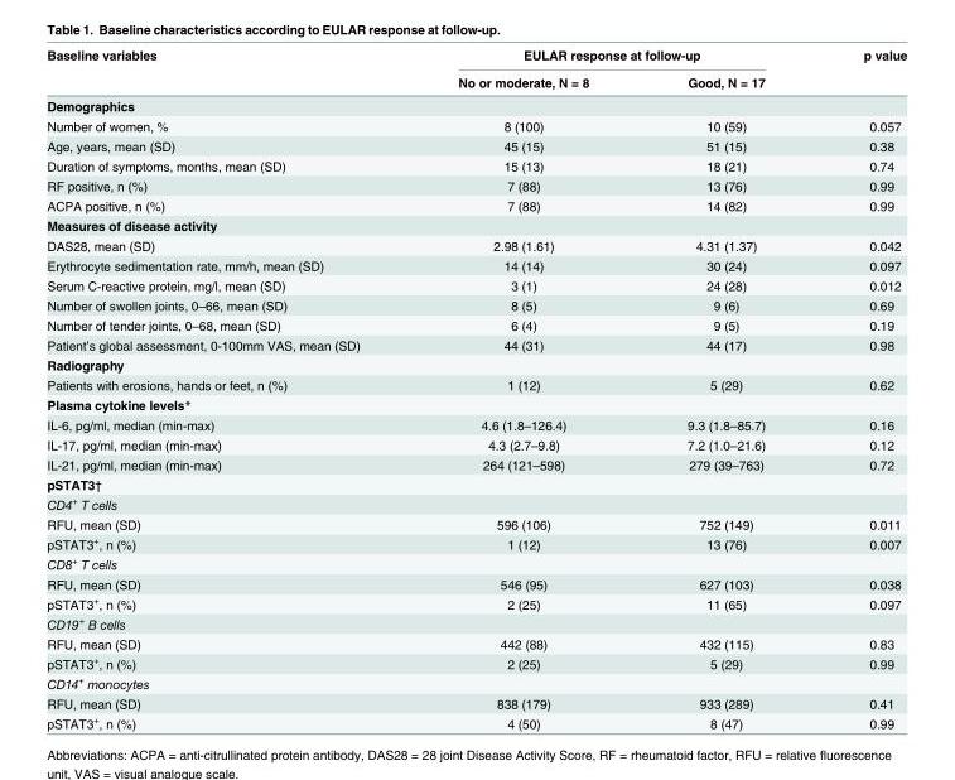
<table><thead><tr><td rowspan="2">Baseline variables</td><td colspan="2">EULAR response at follow-up</td><td rowspan="2">p value</td></tr><tr><td>No or moderate, N = 8</td><td>Good, N = 17</td></tr></thead><tbody><tr><td colspan="4">Demographics</td></tr><tr><td>Number of women, %</td><td>8 (100)</td><td>10 (59)</td><td>0.057</td></tr><tr><td>Age, years, mean (SD)</td><td>45 (15)</td><td>51 (15)</td><td>0.38</td></tr><tr><td>Duration of symptoms, months, mean (SD)</td><td>15 (13)</td><td>18 (21)</td><td>0.74</td></tr><tr><td>RF positive, n (%)</td><td>7 (88)</td><td>13 (76)</td><td>0.99</td></tr><tr><td>ACPA positive, n (%)</td><td>7 (88)</td><td>14 (82)</td><td>0.99</td></tr><tr><td colspan="4">Measures of disease activity</td></tr><tr><td>DAS28, mean (SD)</td><td>2.98 (1.61)</td><td>4.31 (1.37)</td><td>0.042</td></tr><tr><td>Erythrocyte sedimentation rate, mm/h, mean (SD)</td><td>14 (14)</td><td>30 (24)</td><td>0.097</td></tr><tr><td>Serum C-reactive protein, mg/l, mean (SD)</td><td>3 (1)</td><td>24 (28)</td><td>0.012</td></tr><tr><td>Number of swollen joints, 0–66, mean (SD)</td><td>8 (5)</td><td>9 (6)</td><td>0.69</td></tr><tr><td>Number of tender joints, 0–68, mean (SD)</td><td>6 (4)</td><td>9 (5)</td><td>0.19</td></tr><tr><td>Patient’s global assessment, 0-100mm VAS, mean (SD)</td><td>44 (31)</td><td>44 (17)</td><td>0.98</td></tr><tr><td colspan="4">Radiography</td></tr><tr><td>Patients with erosions, hands or feet, n (%)</td><td>1 (12)</td><td>5 (29)</td><td>0.62</td></tr><tr><td colspan="4">Plasma cytokine levels*</td></tr><tr><td>IL-6, pg/ml, median (min-max)</td><td>4.6 (1.8–126.4)</td><td>9.3 (1.8–85.7)</td><td>0.16</td></tr><tr><td>IL-17, pg/ml, median (min-max)</td><td>4.3 (2.7–9.8)</td><td>7.2 (1.0–21.6)</td><td>0.12</td></tr><tr><td>IL-21, pg/ml, median (min-max)</td><td>264 (121–598)</td><td>279 (39–763)</td><td>0.72</td></tr><tr><td colspan="4">pSTAT3†</td></tr><tr><td colspan="4">CD4<sup>+</sup> T cells</td></tr><tr><td>RFU, mean (SD)</td><td>596 (106)</td><td>752 (149)</td><td>0.011</td></tr><tr><td>pSTAT3<sup>+</sup>, n (%)</td><td>1 (12)</td><td>13 (76)</td><td>0.007</td></tr><tr><td colspan="4">CD8<sup>+</sup> T cells</td></tr><tr><td>RFU, mean (SD)</td><td>546 (95)</td><td>627 (103)</td><td>0.038</td></tr><tr><td>pSTAT3<sup>+</sup>, n (%)</td><td>2 (25)</td><td>11 (65)</td><td>0.097</td></tr><tr><td colspan="4">CD19<sup>+</sup> B cells</td></tr><tr><td>RFU, mean (SD)</td><td>442 (88)</td><td>432 (115)</td><td>0.83</td></tr><tr><td>pSTAT3<sup>+</sup>, n (%)</td><td>2 (25)</td><td>5 (29)</td><td>0.99</td></tr><tr><td colspan="4">CD14<sup>+</sup> monocytes</td></tr><tr><td>RFU, mean (SD)</td><td>838 (179)</td><td>933 (289)</td><td>0.41</td></tr><tr><td>pSTAT3<sup>+</sup>, n (%)</td><td>4 (50)</td><td>8 (47)</td><td>0.99</td></tr></tbody></table>